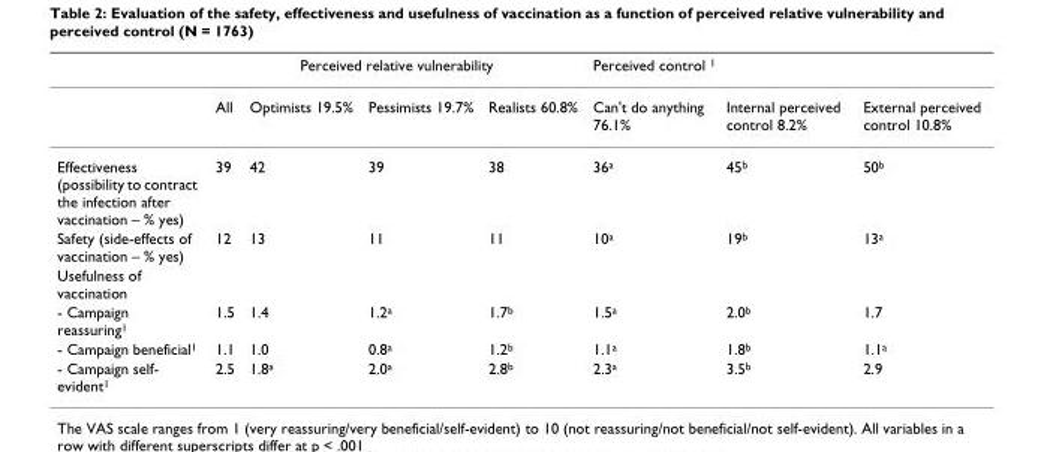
<table><thead><tr><td rowspan="2"></td><td colspan="4">Perceived relative vulnerability</td><td colspan="3">Perceived control <sup>1</sup></td></tr><tr><td>All</td><td>Optimists 19.5%</td><td>Pessimists 19.7%</td><td>Realists 60.8%</td><td>Can&#x27;t do anything 76.1%</td><td>Internal perceived control 8.2%</td><td>External perceived control 10.8%</td></tr></thead><tbody><tr><td>Effectiveness (possibility to contract the infection after vaccination – % yes)</td><td>39</td><td>42</td><td>39</td><td>38</td><td>36<sup>a</sup></td><td>45<sup>b</sup></td><td>50<sup>b</sup></td></tr><tr><td>Safety (side-effects of vaccination – % yes)</td><td>12</td><td>13</td><td>11</td><td>11</td><td>10<sup>a</sup></td><td>19<sup>b</sup></td><td>13<sup>a</sup></td></tr><tr><td colspan="8">Usefulness of vaccination</td></tr><tr><td>- Campaign reassuring<sup>1</sup></td><td>1.5</td><td>1.4</td><td>1.2<sup>a</sup></td><td>1.7<sup>b</sup></td><td>1.5<sup>a</sup></td><td>2.0<sup>b</sup></td><td>1.7</td></tr><tr><td>- Campaign beneficial<sup>1</sup></td><td>1.1</td><td>1.0</td><td>0.8<sup>a</sup></td><td>1.2<sup>b</sup></td><td>1.1<sup>a</sup></td><td>1.8<sup>b</sup></td><td>1.1<sup>a</sup></td></tr><tr><td>- Campaign self- evident<sup>1</sup></td><td>2.5</td><td>1.8<sup>a</sup></td><td>2.0<sup>a</sup></td><td>2.8<sup>b</sup></td><td>2.3<sup>a</sup></td><td>3.5<sup>b</sup></td><td>2.9</td></tr></tbody></table>